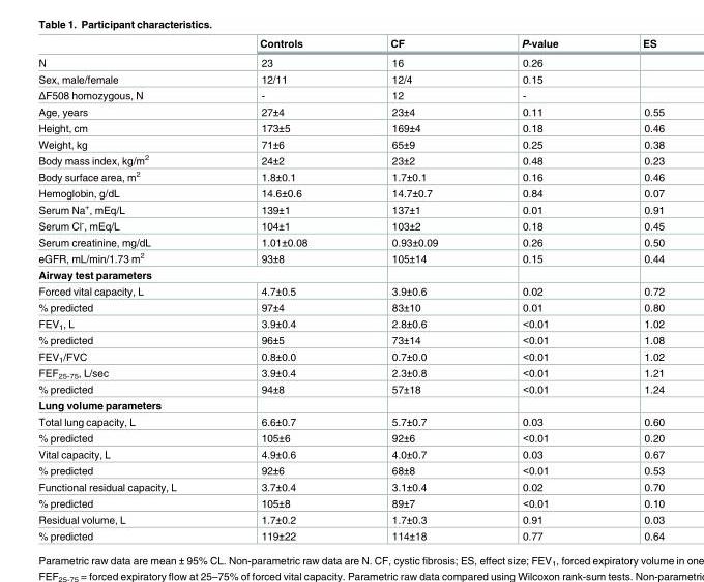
<table><thead><tr><td></td><td>Controls</td><td>CF</td><td>P-value</td><td>ES</td></tr></thead><tbody><tr><td>N</td><td>23</td><td>16</td><td>0.26</td><td></td></tr><tr><td>Sex, male/female</td><td>12/11</td><td>12/4</td><td>0.15</td><td></td></tr><tr><td>ΔF508 homozygous, N</td><td>-</td><td>12</td><td>-</td><td></td></tr><tr><td>Age, years</td><td>27±4</td><td>23±4</td><td>0.11</td><td>0.55</td></tr><tr><td>Height, cm</td><td>173±5</td><td>169±4</td><td>0.18</td><td>0.46</td></tr><tr><td>Weight, kg</td><td>71±6</td><td>65±9</td><td>0.25</td><td>0.38</td></tr><tr><td>Body mass index, kg/m<sup>2</sup></td><td>24±2</td><td>23±2</td><td>0.48</td><td>0.23</td></tr><tr><td>Body surface area, m<sup>2</sup></td><td>1.8±0.1</td><td>1.7±0.1</td><td>0.16</td><td>0.46</td></tr><tr><td>Hemoglobin, g/dL</td><td>14.6±0.6</td><td>14.7±0.7</td><td>0.84</td><td>0.07</td></tr><tr><td>Serum Na<sup>+</sup>, mEq/L</td><td>139±1</td><td>137±1</td><td>0.01</td><td>0.91</td></tr><tr><td>Serum Cl<sup>-</sup>, mEq/L</td><td>104±1</td><td>103±2</td><td>0.18</td><td>0.45</td></tr><tr><td>Serum creatinine, mg/dL</td><td>1.01±0.08</td><td>0.93±0.09</td><td>0.26</td><td>0.50</td></tr><tr><td>eGFR, mL/min/1.73 m<sup>2</sup></td><td>93±8</td><td>105±14</td><td>0.15</td><td>0.44</td></tr><tr><td colspan="5">Airway test parameters</td></tr><tr><td>Forced vital capacity, L</td><td>4.7±0.5</td><td>3.9±0.6</td><td>0.02</td><td>0.72</td></tr><tr><td>% predicted</td><td>97±4</td><td>83±10</td><td>0.01</td><td>0.80</td></tr><tr><td>FEV<sub>1</sub>, L</td><td>3.9±0.4</td><td>2.8±0.6</td><td>&lt;0.01</td><td>1.02</td></tr><tr><td>% predicted</td><td>96±5</td><td>73±14</td><td>&lt;0.01</td><td>1.08</td></tr><tr><td>FEV<sub>1</sub>/FVC</td><td>0.8±0.0</td><td>0.7±0.0</td><td>&lt;0.01</td><td>1.02</td></tr><tr><td>FEF<sub>25-75</sub>, L/sec</td><td>3.9±0.4</td><td>2.3±0.8</td><td>&lt;0.01</td><td>1.21</td></tr><tr><td>% predicted</td><td>94±8</td><td>57±18</td><td>&lt;0.01</td><td>1.24</td></tr><tr><td colspan="5">Lung volume parameters</td></tr><tr><td>Total lung capacity, L</td><td>6.6±0.7</td><td>5.7±0.7</td><td>0.03</td><td>0.60</td></tr><tr><td>% predicted</td><td>105±6</td><td>92±6</td><td>&lt;0.01</td><td>0.20</td></tr><tr><td>Vital capacity, L</td><td>4.9±0.6</td><td>4.0±0.7</td><td>0.03</td><td>0.67</td></tr><tr><td>% predicted</td><td>92±6</td><td>68±8</td><td>&lt;0.01</td><td>0.53</td></tr><tr><td>Functional residual capacity, L</td><td>3.7±0.4</td><td>3.1±0.4</td><td>0.02</td><td>0.70</td></tr><tr><td>% predicted</td><td>105±8</td><td>89±7</td><td>&lt;0.01</td><td>0.10</td></tr><tr><td>Residual volume, L</td><td>1.7±0.2</td><td>1.7±0.3</td><td>0.91</td><td>0.03</td></tr><tr><td>% predicted</td><td>119±22</td><td>114±18</td><td>0.77</td><td>0.64</td></tr></tbody></table>